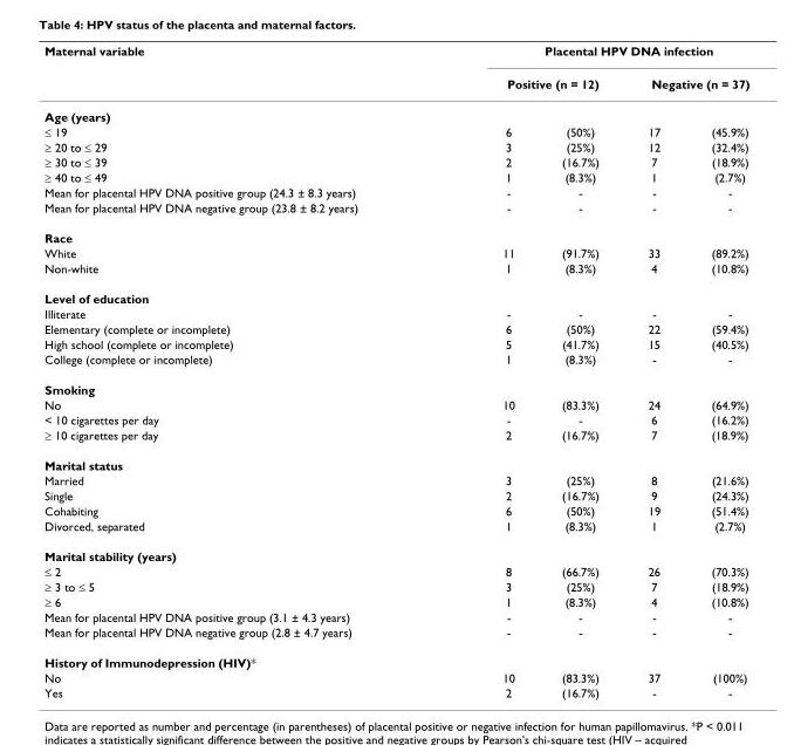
<table><thead><tr><td rowspan="3">Maternal variable Age (years)</td><td colspan="4">Placental HPV DNA infection</td></tr><tr><td colspan="2">Positive (n = 12)</td><td colspan="2">Negative (n = 37)</td></tr><tr><td></td><td></td><td></td><td></td></tr></thead><tbody><tr><td>≤ 19</td><td>6</td><td>(50%)</td><td>17</td><td>(45.9%)</td></tr><tr><td>≥ 20 to ≤ 29</td><td>3</td><td>(25%)</td><td>12</td><td>(32.4%)</td></tr><tr><td>≥ 30 to ≤ 39</td><td>2</td><td>(16.7%)</td><td>7</td><td>(18.9%)</td></tr><tr><td>≥ 40 to ≤ 49</td><td>1</td><td>(8.3%)</td><td>1</td><td>(2.7%)</td></tr><tr><td>Mean for placental HPV DNA positive group (24.3 ± 8.3 years)</td><td>-</td><td>-</td><td>-</td><td>-</td></tr><tr><td>Mean for placental HPV DNA negative group (23.8 ± 8.2 years)</td><td>-</td><td>-</td><td>-</td><td>-</td></tr><tr><td colspan="5">Race</td></tr><tr><td>White</td><td>11</td><td>(91.7%)</td><td>33</td><td>(89.2%)</td></tr><tr><td>Non-white</td><td>1</td><td>(8.3%)</td><td>4</td><td>(10.8%)</td></tr><tr><td colspan="5">Level of education</td></tr><tr><td>Illiterate</td><td>-</td><td>-</td><td>-</td><td>-</td></tr><tr><td>Elementary (complete or incomplete)</td><td>6</td><td>(50%)</td><td>22</td><td>(59.4%)</td></tr><tr><td>High school (complete or incomplete)</td><td>5</td><td>(41.7%)</td><td>15</td><td>(40.5%)</td></tr><tr><td>College (complete or incomplete)</td><td>1</td><td>(8.3%)</td><td>-</td><td>-</td></tr><tr><td colspan="5">Smoking</td></tr><tr><td>No</td><td>10</td><td>(83.3%)</td><td>24</td><td>(64.9%)</td></tr><tr><td>&lt; 10 cigarettes per day</td><td>-</td><td>-</td><td>6</td><td>(16.2%)</td></tr><tr><td>≥ 10 cigarettes per day</td><td>2</td><td>(16.7%)</td><td>7</td><td>(18.9%)</td></tr><tr><td colspan="5">Marital status</td></tr><tr><td>Married</td><td>3</td><td>(25%)</td><td>8</td><td>(21.6%)</td></tr><tr><td>Single</td><td>2</td><td>(16.7%)</td><td>9</td><td>(24.3%)</td></tr><tr><td>Cohabiting</td><td>6</td><td>(50%)</td><td>19</td><td>(51.4%)</td></tr><tr><td>Divorced, separated</td><td>1</td><td>(8.3%)</td><td>1</td><td>(2.7%)</td></tr><tr><td colspan="5">Marital stability (years)</td></tr><tr><td>≤ 2</td><td>8</td><td>(66.7%)</td><td>26</td><td>(70.3%)</td></tr><tr><td>≥ 3 to ≤ 5</td><td>3</td><td>(25%)</td><td>7</td><td>(18.9%)</td></tr><tr><td>≥ 6</td><td>1</td><td>(8.3%)</td><td>4</td><td>(10.8%)</td></tr><tr><td>Mean for placental HPV DNA positive group (3.1 ± 4.3 years)</td><td>-</td><td>-</td><td>-</td><td>-</td></tr><tr><td>Mean for placental HPV DNA negative group (2.8 ± 4.7 years)</td><td>-</td><td>-</td><td>-</td><td>-</td></tr><tr><td colspan="5">History of Immunodepression (HIV)*</td></tr><tr><td>No</td><td>10</td><td>(83.3%)</td><td>37</td><td>(100%)</td></tr><tr><td>Yes</td><td>2</td><td>(16.7%)</td><td>-</td><td>-</td></tr></tbody></table>